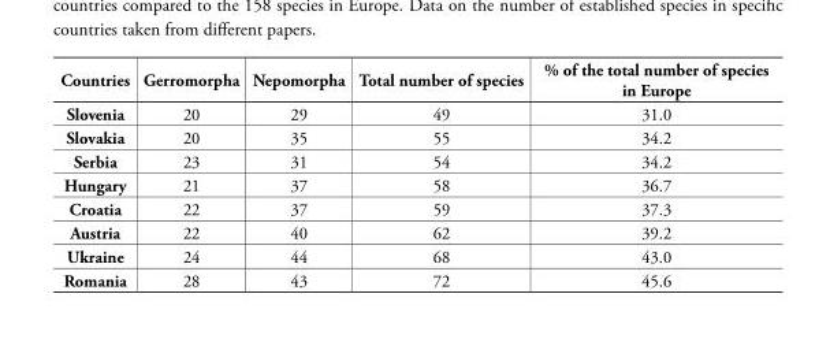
<table><thead><tr><td>Countries</td><td>Gerromorpha</td><td>Nepomorpha</td><td>Total number of species</td><td>% of the total number of species in Europe</td></tr></thead><tbody><tr><td>Slovenia</td><td>20</td><td>29</td><td>49</td><td>31.0</td></tr><tr><td>Slovakia</td><td>20</td><td>35</td><td>55</td><td>34.2</td></tr><tr><td>Serbia</td><td>23</td><td>31</td><td>54</td><td>34.2</td></tr><tr><td>Hungary</td><td>21</td><td>37</td><td>58</td><td>36.7</td></tr><tr><td>Croatia</td><td>22</td><td>37</td><td>59</td><td>37.3</td></tr><tr><td>Austria</td><td>22</td><td>40</td><td>62</td><td>39.2</td></tr><tr><td>Ukraine</td><td>24</td><td>44</td><td>68</td><td>43.0</td></tr><tr><td>Romania</td><td>28</td><td>43</td><td>72</td><td>45.6</td></tr></tbody></table>